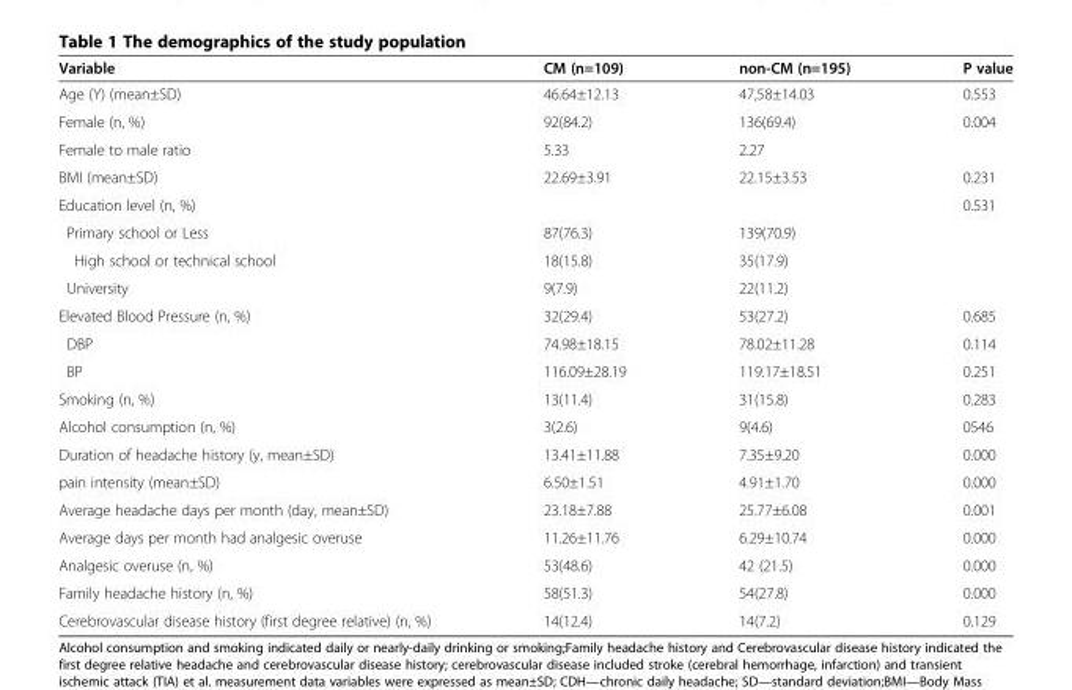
<table><thead><tr><td>Variable</td><td>CM (n=109)</td><td>non-CM (n=195)</td><td>P value</td></tr></thead><tbody><tr><td>Age (Y) (mean±SD)</td><td>46.64±12.13</td><td>47,58±14.03</td><td>0.553</td></tr><tr><td>Female (n, %)</td><td>92(84.2)</td><td>136(69.4)</td><td>0.004</td></tr><tr><td>Female to male ratio</td><td>5.33</td><td>2.27</td><td></td></tr><tr><td>BMI (mean±SD)</td><td>22.69±3.91</td><td>22.15±3.53</td><td>0.231</td></tr><tr><td>Education level (n, %)</td><td></td><td></td><td>0.531</td></tr><tr><td>Primary school or Less</td><td>87(76.3)</td><td>139(70.9)</td><td></td></tr><tr><td>High school or technical school</td><td>18(15.8)</td><td>35(17.9)</td><td></td></tr><tr><td>University</td><td>9(7.9)</td><td>22(11.2)</td><td></td></tr><tr><td>Elevated Blood Pressure (n, %)</td><td>32(29.4)</td><td>53(27.2)</td><td>0.685</td></tr><tr><td>DBP</td><td>74.98±18.15</td><td>78.02±11.28</td><td>0.114</td></tr><tr><td>BP</td><td>116.09±28.19</td><td>119.17±18.51</td><td>0.251</td></tr><tr><td>Smoking (n, %)</td><td>13(11.4)</td><td>31(15.8)</td><td>0.283</td></tr><tr><td>Alcohol consumption (n, %)</td><td>3(2.6)</td><td>9(4.6)</td><td>0546</td></tr><tr><td>Duration of headache history (y, mean±SD)</td><td>13.41±11.88</td><td>7.35±9.20</td><td>0.000</td></tr><tr><td>pain intensity (mean±SD)</td><td>6.50±1.51</td><td>4.91±1.70</td><td>0.000</td></tr><tr><td>Average headache days per month (day, mean±SD)</td><td>23.18±7.88</td><td>25.77±6.08</td><td>0.001</td></tr><tr><td>Average days per month had analgesic overuse</td><td>11.26±11.76</td><td>6.29±10.74</td><td>0.000</td></tr><tr><td>Analgesic overuse (n, %)</td><td>53(48.6)</td><td>42 (21.5)</td><td>0.000</td></tr><tr><td>Family headache history (n, %)</td><td>58(51.3)</td><td>54(27.8)</td><td>0.000</td></tr><tr><td>Cerebrovascular disease history (first degree relative) (n, %)</td><td>14(12.4)</td><td>14(7.2)</td><td>0.129</td></tr></tbody></table>